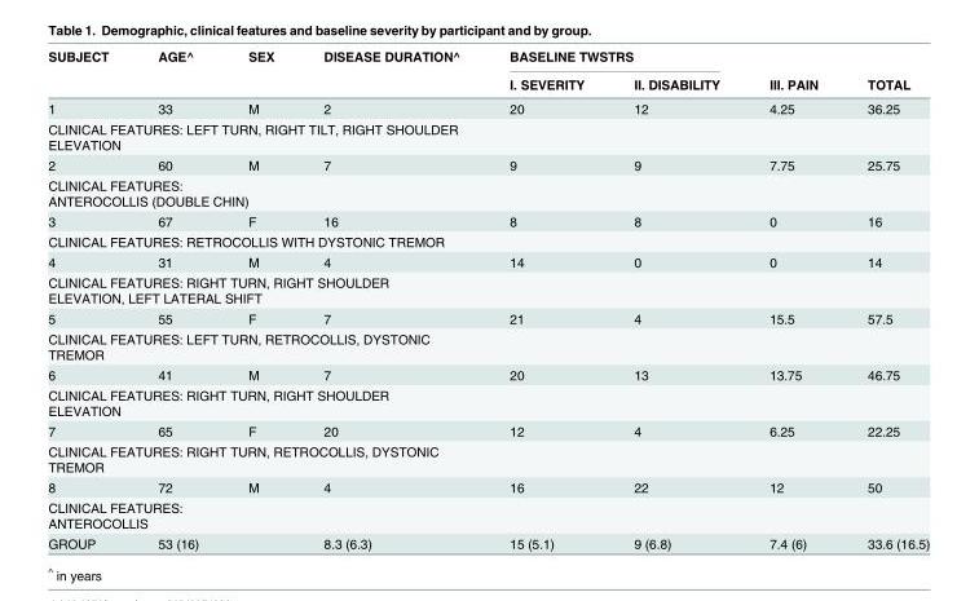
<table><thead><tr><td rowspan="2">SUBJECT</td><td rowspan="2">AGE^</td><td rowspan="2">SEX</td><td rowspan="2">DISEASE DURATION^</td><td colspan="2">BASELINE TWSTRS</td><td rowspan="2">III. PAIN</td><td rowspan="2">TOTAL</td></tr><tr><td>I. SEVERITY</td><td>II. DISABILITY</td></tr></thead><tbody><tr><td>1</td><td>33</td><td>M</td><td>2</td><td>20</td><td>12</td><td>4.25</td><td>36.25</td></tr><tr><td colspan="8">CLINICAL FEATURES: LEFT TURN, RIGHT TILT, RIGHT SHOULDER ELEVATION</td></tr><tr><td>2</td><td>60</td><td>M</td><td>7</td><td>9</td><td>9</td><td>7.75</td><td>25.75</td></tr><tr><td colspan="8">CLINICAL FEATURES: ANTEROCOLLIS (DOUBLE CHIN)</td></tr><tr><td>3</td><td>67</td><td>F</td><td>16</td><td>8</td><td>8</td><td>0</td><td>16</td></tr><tr><td colspan="8">CLINICAL FEATURES: RETROCOLLIS WITH DYSTONIC TREMOR</td></tr><tr><td>4</td><td>31</td><td>M</td><td>4</td><td>14</td><td>0</td><td>0</td><td>14</td></tr><tr><td colspan="8">CLINICAL FEATURES: RIGHT TURN, RIGHT SHOULDER ELEVATION, LEFT LATERAL SHIFT</td></tr><tr><td>5</td><td>55</td><td>F</td><td>7</td><td>21</td><td>4</td><td>15.5</td><td>57.5</td></tr><tr><td colspan="8">CLINICAL FEATURES: LEFT TURN, RETROCOLLIS, DYSTONIC TREMOR</td></tr><tr><td>6</td><td>41</td><td>M</td><td>7</td><td>20</td><td>13</td><td>13.75</td><td>46.75</td></tr><tr><td colspan="8">CLINICAL FEATURES: RIGHT TURN, RIGHT SHOULDER ELEVATION</td></tr><tr><td>7</td><td>65</td><td>F</td><td>20</td><td>12</td><td>4</td><td>6.25</td><td>22.25</td></tr><tr><td colspan="8">CLINICAL FEATURES: RIGHT TURN, RETROCOLLIS, DYSTONIC TREMOR</td></tr><tr><td>8</td><td>72</td><td>M</td><td>4</td><td>16</td><td>22</td><td>12</td><td>50</td></tr><tr><td colspan="8">CLINICAL FEATURES: ANTEROCOLLIS</td></tr><tr><td>GROUP</td><td>53 (16)</td><td></td><td>8.3 (6.3)</td><td>15 (5.1)</td><td>9 (6.8)</td><td>7.4 (6)</td><td>33.6 (16.5)</td></tr></tbody></table>